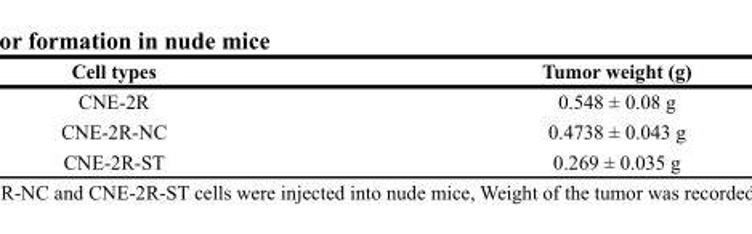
<table><thead><tr><td>Cell types</td><td>Tumor weight (g)</td></tr></thead><tbody><tr><td>CNE-2R</td><td>0.548 ± 0.08 g</td></tr><tr><td>CNE-2R-NC</td><td>0.4738 ± 0.043 g</td></tr><tr><td>CNE-2R-ST</td><td>0.269 ± 0.035 g</td></tr></tbody></table>